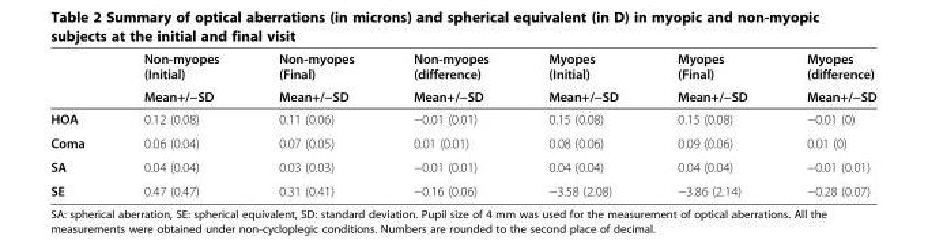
<table><thead><tr><td rowspan="2"></td><td rowspan="2">Non-myopes (Initial) Mean+/−SD</td><td rowspan="2">Non-myopes (Final) Mean+/−SD</td><td rowspan="2">Non-myopes (difference) Mean+/−SD</td><td rowspan="2">Myopes (Initial) Mean+/−SD</td><td rowspan="2">Myopes (Final) Mean+/−SD</td><td rowspan="2">Myopes (difference) Mean+/−SD</td></tr><tr></tr></thead><tbody><tr><td>HOA</td><td>0.12 (0.08)</td><td>0.11 (0.06)</td><td>−0.01 (0.01)</td><td>0.15 (0.08)</td><td>0.15 (0.08)</td><td>−0.01 (0)</td></tr><tr><td>Coma</td><td>0.06 (0.04)</td><td>0.07 (0.05)</td><td>0.01 (0.01)</td><td>0.08 (0.06)</td><td>0.09 (0.06)</td><td>0.01 (0)</td></tr><tr><td>SA</td><td>0.04 (0.04)</td><td>0.03 (0.03)</td><td>−0.01 (0.01)</td><td>0.04 (0.04)</td><td>0.04 (0.04)</td><td>−0.01 (0.01)</td></tr><tr><td>SE</td><td>0.47 (0.47)</td><td>0.31 (0.41)</td><td>−0.16 (0.06)</td><td>−3.58 (2.08)</td><td>−3.86 (2.14)</td><td>−0.28 (0.07)</td></tr></tbody></table>